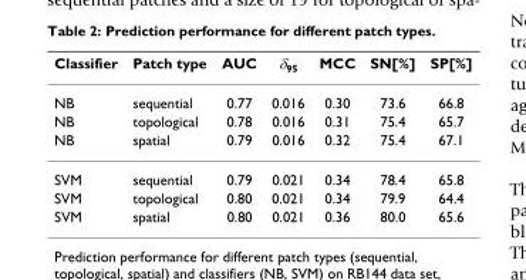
<table><thead><tr><td>Classifier</td><td>Patch type</td><td>AUC</td><td>δ<sub>95</sub></td><td>MCC</td><td>SN[%]</td><td>SP[%]</td></tr></thead><tbody><tr><td>NB</td><td>sequential</td><td>0.77</td><td>0.016</td><td>0.30</td><td>73.6</td><td>66.8</td></tr><tr><td>NB</td><td>topological</td><td>0.78</td><td>0.016</td><td>0.31</td><td>75.4</td><td>65.7</td></tr><tr><td>NB</td><td>spatial</td><td>0.79</td><td>0.016</td><td>0.32</td><td>75.4</td><td>67.1</td></tr><tr><td>SVM</td><td>sequential</td><td>0.79</td><td>0.021</td><td>0.34</td><td>78.4</td><td>65.8</td></tr><tr><td>SVM</td><td>topological</td><td>0.80</td><td>0.021</td><td>0.34</td><td>79.9</td><td>64.4</td></tr><tr><td>SVM</td><td>spatial</td><td>0.80</td><td>0.021</td><td>0.36</td><td>80.0</td><td>65.6</td></tr></tbody></table>